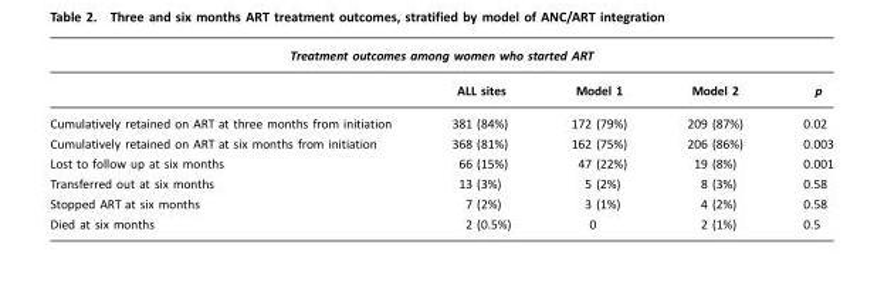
<table><thead><tr><td colspan="5">Treatment outcomes among women who started ART</td></tr><tr><td></td><td>ALL sites</td><td>Model 1</td><td>Model 2</td><td>p</td></tr></thead><tbody><tr><td>Cumulatively retained on ART at three months from initiation</td><td>381 (84%)</td><td>172 (79%)</td><td>209 (87%)</td><td>0.02</td></tr><tr><td>Cumulatively retained on ART at six months from initiation</td><td>368 (81%)</td><td>162 (75%)</td><td>206 (86%)</td><td>0.003</td></tr><tr><td>Lost to follow up at six months</td><td>66 (15%)</td><td>47 (22%)</td><td>19 (8%)</td><td>0.001</td></tr><tr><td>Transferred out at six months</td><td>13 (3%)</td><td>5 (2%)</td><td>8 (3%)</td><td>0.58</td></tr><tr><td>Stopped ART at six months</td><td>7 (2%)</td><td>3 (1%)</td><td>4 (2%)</td><td>0.58</td></tr><tr><td>Died at six months</td><td>2 (0.5%)</td><td>0</td><td>2 (1%)</td><td>0.5</td></tr></tbody></table>